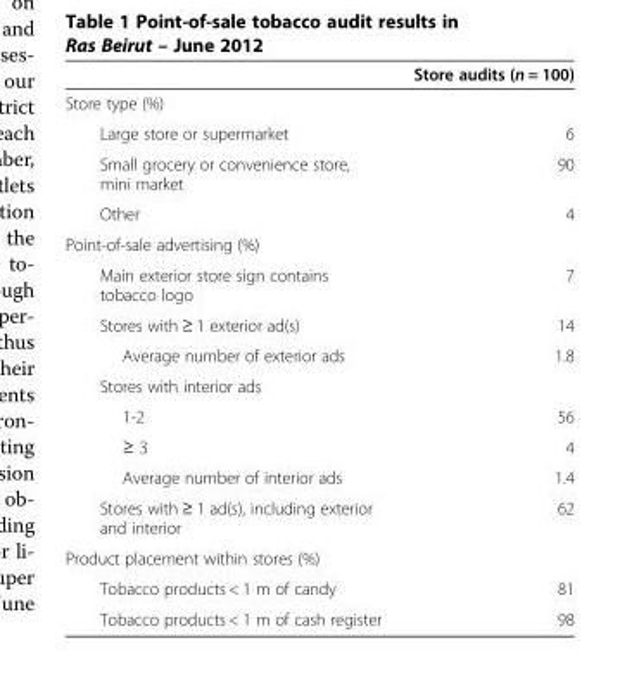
<table><thead><tr><td></td><td>Store audits (n = 100)</td></tr></thead><tbody><tr><td colspan="2">Store type (%)</td></tr><tr><td>Large store or supermarket</td><td>6</td></tr><tr><td>Small grocery or convenience store, mini market</td><td>90</td></tr><tr><td>Other</td><td>4</td></tr><tr><td colspan="2">Point-of-sale advertising (%)</td></tr><tr><td>Main exterior store sign contains tobacco logo</td><td>7</td></tr><tr><td>Stores with ≥ 1 exterior ad(s)</td><td>14</td></tr><tr><td>Average number of exterior ads</td><td>1.8</td></tr><tr><td colspan="2">Stores with interior ads</td></tr><tr><td>1-2</td><td>56</td></tr><tr><td>≥ 3</td><td>4</td></tr><tr><td>Average number of interior ads</td><td>1.4</td></tr><tr><td>Stores with ≥ 1 ad(s), including exterior and interior</td><td>62</td></tr><tr><td colspan="2">Product placement within stores (%)</td></tr><tr><td>Tobacco products &lt; 1 m of candy</td><td>81</td></tr><tr><td>Tobacco products &lt; 1 m of cash register</td><td>98</td></tr></tbody></table>